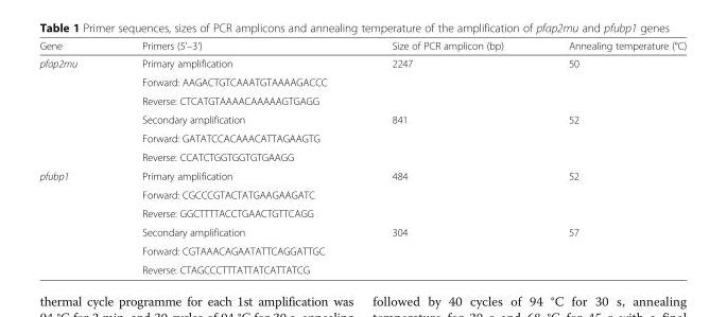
<table><thead><tr><td>Gene</td><td>Primers (5&#x27;–3&#x27;)</td><td>Size of PCR amplicon (bp)</td><td>Annealing temperature (°C)</td></tr></thead><tbody><tr><td rowspan="6">pfap2mu</td><td>Primary amplification</td><td rowspan="3">2247</td><td rowspan="3">50</td></tr><tr><td>Forward: AAGACTGTCAAATGTAAAAGACCC</td></tr><tr><td>Reverse: CTCATGTAAAACAAAAAGTGAGG</td></tr><tr><td>Secondary amplification</td><td rowspan="3">841</td><td rowspan="3">52</td></tr><tr><td>Forward: GATATCCACAAACATTAGAAGTG</td></tr><tr><td>Reverse: CCATCTGGTGGTGTGAAGG</td></tr><tr><td rowspan="6">pfubp1</td><td>Primary amplification</td><td rowspan="3">484</td><td rowspan="3">52</td></tr><tr><td>Forward: CGCCCGTACTATGAAGAAGATC</td></tr><tr><td>Reverse: GGCTTTTACCTGAACTGTTCAGG</td></tr><tr><td>Secondary amplification</td><td rowspan="3">304</td><td rowspan="3">57</td></tr><tr><td>Forward: CGTAAACAGAATATTCAGGATTGC</td></tr><tr><td>Reverse: CTAGCCCTTTATTATCATTATCG</td></tr></tbody></table>